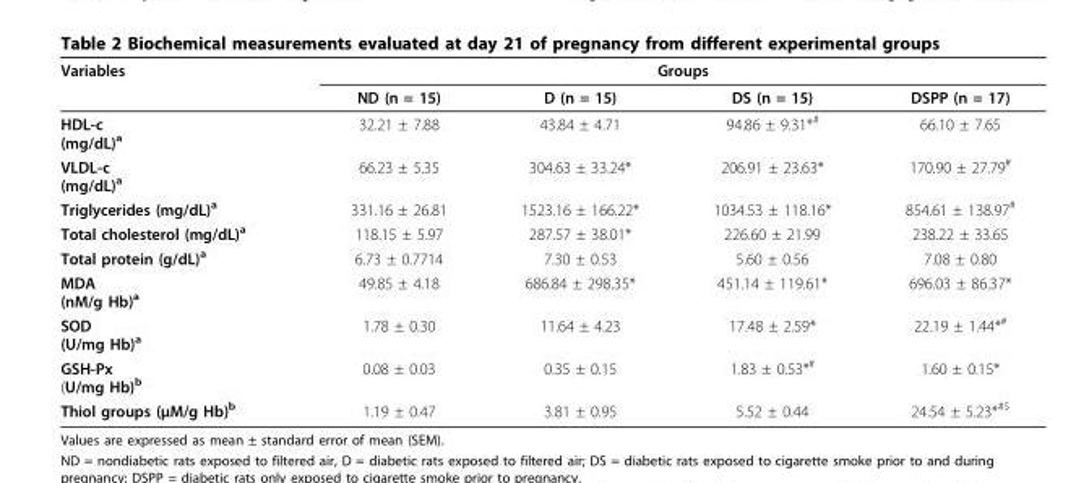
<table><thead><tr><td rowspan="2">Variables</td><td colspan="4">Groups</td></tr><tr><td>ND (n = 15)</td><td>D (n = 15)</td><td>DS (n = 15)</td><td>DSPP (n = 17)</td></tr></thead><tbody><tr><td>HDL-c (mg/dL)<sup>a</sup></td><td>32.21 ± 7.88</td><td>43.84 ± 4.71</td><td>94.86 ± 9.31*<sup>#</sup></td><td>66.10 ± 7.65</td></tr><tr><td>VLDL-c (mg/dL)<sup>a</sup></td><td>66.23 ± 5.35</td><td>304.63 ± 33.24*</td><td>206.91 ± 23.63*</td><td>170.90 ± 27.79<sup>#</sup></td></tr><tr><td>Triglycerides (mg/dL)<sup>a</sup></td><td>331.16 ± 26.81</td><td>1523.16 ± 166.22*</td><td>1034.53 ± 118.16*</td><td>854.61 ± 138.97<sup>#</sup></td></tr><tr><td>Total cholesterol (mg/dL)<sup>a</sup></td><td>118.15 ± 5.97</td><td>287.57 ± 38.01*</td><td>226.60 ± 21.99</td><td>238.22 ± 33.65</td></tr><tr><td>Total protein (g/dL)<sup>a</sup></td><td>6.73 ± 0.7714</td><td>7.30 ± 0.53</td><td>5.60 ± 0.56</td><td>7.08 ± 0.80</td></tr><tr><td>MDA (nM/g Hb)<sup>a</sup></td><td>49.85 ± 4.18</td><td>686.84 ± 298.35*</td><td>451.14 ± 119.61*</td><td>696.03 ± 86.37*</td></tr><tr><td>SOD (U/mg Hb)<sup>a</sup></td><td>1.78 ± 0.30</td><td>11.64 ± 4.23</td><td>17.48 ± 2.59*</td><td>22.19 ± 1.44*<sup>#</sup></td></tr><tr><td>GSH-Px (U/mg Hb)<sup>b</sup></td><td>0.08 ± 0.03</td><td>0.35 ± 0.15</td><td>1.83 ± 0.53*<sup>#</sup></td><td>1.60 ± 0.15*</td></tr><tr><td>Thiol groups (μM/g Hb)<sup>b</sup></td><td>1.19 ± 0.47</td><td>3.81 ± 0.95</td><td>5.52 ± 0.44</td><td>24.54 ± 5.23*<sup>#$</sup></td></tr></tbody></table>